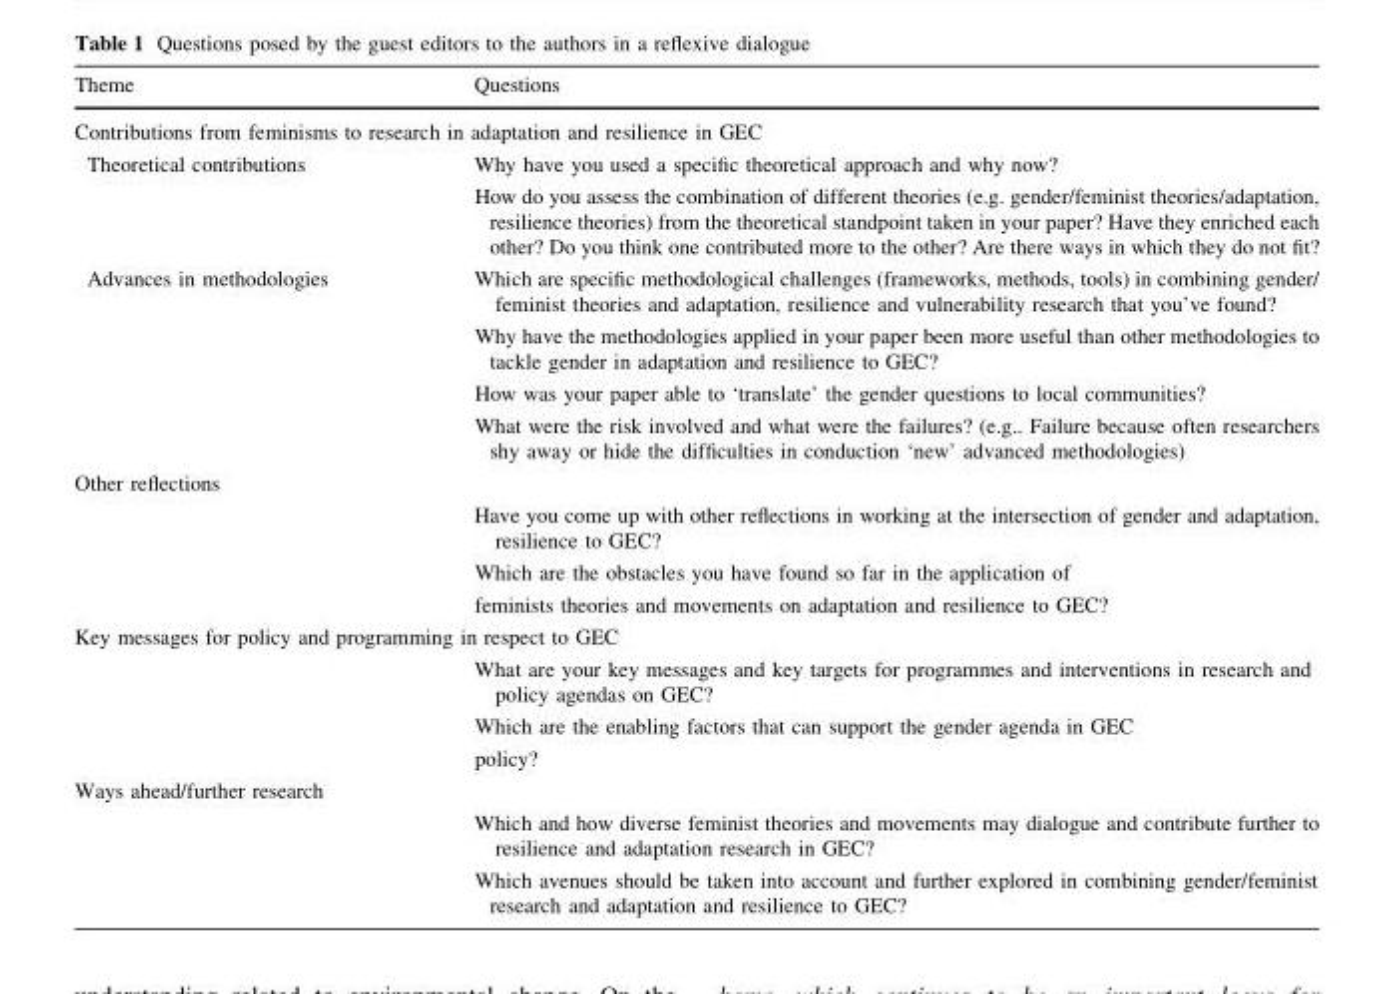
<table><thead><tr><td>Theme</td><td>Questions</td></tr></thead><tbody><tr><td colspan="2">Contributions from feminisms to research in adaptation and resilience in GEC</td></tr><tr><td>Theoretical contributions</td><td>Why have you used a specific theoretical approach and why now? How do you assess the combination of different theories (e.g. gender/feminist theories/adaptation, resilience theories) from the theoretical standpoint taken in your paper? Have they enriched each other? Do you think one contributed more to the other? Are there ways in which they do not fit?</td></tr><tr><td>Advances in methodologies</td><td>Which are specific methodological challenges (frameworks, methods, tools) in combining gender/ feminist theories and adaptation, resilience and vulnerability research that you’ve found? Why have the methodologies applied in your paper been more useful than other methodologies to tackle gender in adaptation and resilience to GEC? How was your paper able to ‘translate’ the gender questions to local communities? What were the risk involved and what were the failures? (e.g.. Failure because often researchers shy away or hide the difficulties in conduction ‘new’ advanced methodologies)</td></tr><tr><td colspan="2">Other reflections</td></tr><tr><td></td><td>Have you come up with other reflections in working at the intersection of gender and adaptation, resilience to GEC? Which are the obstacles you have found so far in the application of feminists theories and movements on adaptation and resilience to GEC?</td></tr><tr><td colspan="2">Key messages for policy and programming in respect to GEC</td></tr><tr><td></td><td>What are your key messages and key targets for programmes and interventions in research and policy agendas on GEC? Which are the enabling factors that can support the gender agenda in GEC policy?</td></tr><tr><td colspan="2">Ways ahead/further research</td></tr><tr><td></td><td>Which and how diverse feminist theories and movements may dialogue and contribute further to resilience and adaptation research in GEC? Which avenues should be taken into account and further explored in combining gender/feminist research and adaptation and resilience to GEC?</td></tr></tbody></table>